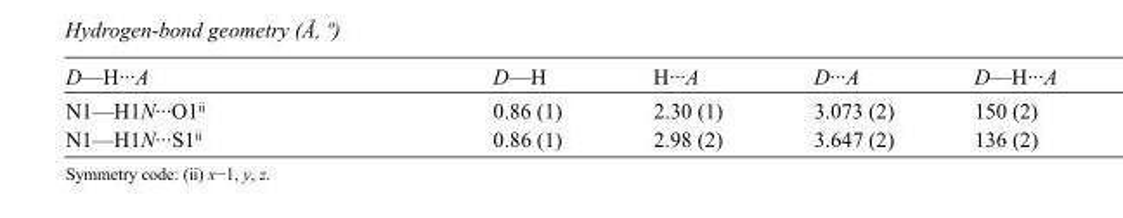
<table><tbody><tr><td>D—H···A</td><td>D—H</td><td>H···A</td><td>D···A</td><td>D—H···A</td></tr><tr><td>N1—H1N···O1<sup>ii</sup></td><td>0.86 (1)</td><td>2.30 (1)</td><td>3.073 (2)</td><td>150 (2)</td></tr><tr><td>N1—H1N···S1<sup>ii</sup></td><td>0.86 (1)</td><td>2.98 (2)</td><td>3.647 (2)</td><td>136 (2)</td></tr></tbody></table>